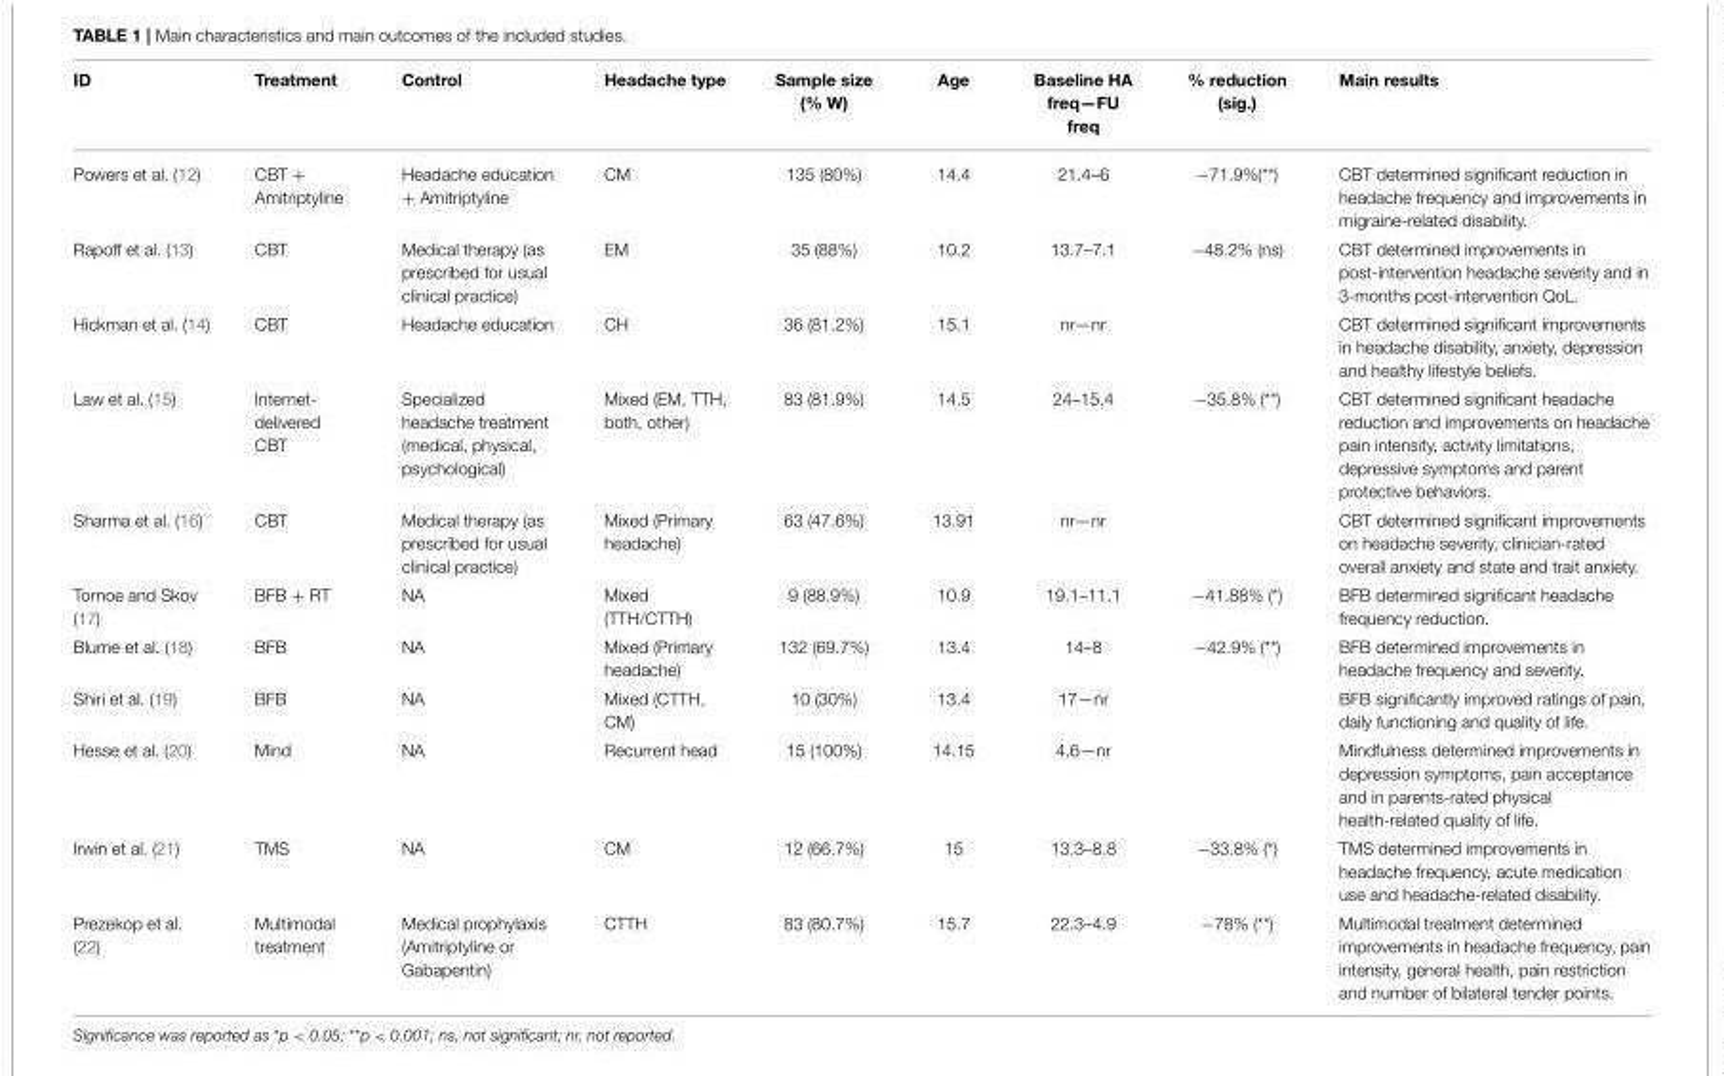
<table><thead><tr><td>ID</td><td>Treatment</td><td>Control</td><td>Headache type</td><td>Sample size (% W)</td><td>Age</td><td>Baseline HA freq—FU freq</td><td>% reduction (sig.)</td><td>Main results</td></tr></thead><tbody><tr><td>Powers et al. (12)</td><td>CBT + Amitriptyline</td><td>Headache education + Amitriptyline</td><td>CM</td><td>135 (80%)</td><td>14.4</td><td>21.4–6</td><td>−71.9%(**)</td><td>CBT determined significant reduction in headache frequency and improvements in migraine-related disability.</td></tr><tr><td>Rapoff et al. (13)</td><td>CBT</td><td>Medical therapy (as prescribed for usual clinical practice)</td><td>EM</td><td>35 (88%)</td><td>10.2</td><td>13.7–7.1</td><td>−48.2% (ns)</td><td>CBT determined improvements in post-intervention headache severity and in 3-months post-intervention QoL.</td></tr><tr><td>Hickman et al. (14)</td><td>CBT</td><td>Headache education</td><td>CH</td><td>36 (81.2%)</td><td>15.1</td><td>nr—nr</td><td></td><td>CBT determined significant improvements in headache disability, anxiety, depression and healthy lifestyle beliefs.</td></tr><tr><td>Law et al. (15)</td><td>Internet- delivered CBT</td><td>Specialized headache treatment (medical, physical, psychological)</td><td>Mixed (EM, TTH, both, other)</td><td>83 (81.9%)</td><td>14.5</td><td>24–15.4</td><td>−35.8% (**)</td><td>CBT determined significant headache reduction and improvements on headache pain intensity, activity limitations, depressive symptoms and parent protective behaviors.</td></tr><tr><td>Sharma et al. (16)</td><td>CBT</td><td>Medical therapy (as prescribed for usual clinical practice)</td><td>Mixed (Primary headache)</td><td>63 (47.6%)</td><td>13.91</td><td>nr—nr</td><td></td><td>CBT determined significant improvements on headache severity, clinician-rated overall anxiety and state and trait anxiety.</td></tr><tr><td>Tornoe and Skov (17)</td><td>BFB + RT</td><td>NA</td><td>Mixed (TTH/CTTH)</td><td>9 (88.9%)</td><td>10.9</td><td>19.1–11.1</td><td>−41.88% (*)</td><td>BFB determined significant headache frequency reduction.</td></tr><tr><td>Blume et al. (18)</td><td>BFB</td><td>NA</td><td>Mixed (Primary headache)</td><td>132 (69.7%)</td><td>13.4</td><td>14–8</td><td>−42.9% (**)</td><td>BFB determined improvements in headache frequency and severity.</td></tr><tr><td>Shiri et al. (19)</td><td>BFB</td><td>NA</td><td>Mixed (CTTH, CM)</td><td>10 (30%)</td><td>13.4</td><td>17—nr</td><td></td><td>BFB significantly improved ratings of pain, daily functioning and quality of life.</td></tr><tr><td>Hesse et al. (20)</td><td>Mind</td><td>NA</td><td>Recurrent head</td><td>15 (100%)</td><td>14.15</td><td>4.6—nr</td><td></td><td>Mindfulness determined improvements in depression symptoms, pain acceptance and in parents-rated physical health-related quality of life.</td></tr><tr><td>Irwin et al. (21)</td><td>TMS</td><td>NA</td><td>CM</td><td>12 (66.7%)</td><td>15</td><td>13.3–8.8</td><td>−33.8% (*)</td><td>TMS determined improvements in headache frequency, acute medication use and headache-related disability.</td></tr><tr><td>Prezekop et al. (22)</td><td>Multimodal treatment</td><td>Medical prophylaxis (Amitriptyline or Gabapentin)</td><td>CTTH</td><td>83 (80.7%)</td><td>15.7</td><td>22.3–4.9</td><td>−78% (**)</td><td>Multimodal treatment determined improvements in headache frequency, pain intensity, general health, pain restriction and number of bilateral tender points.</td></tr></tbody></table>